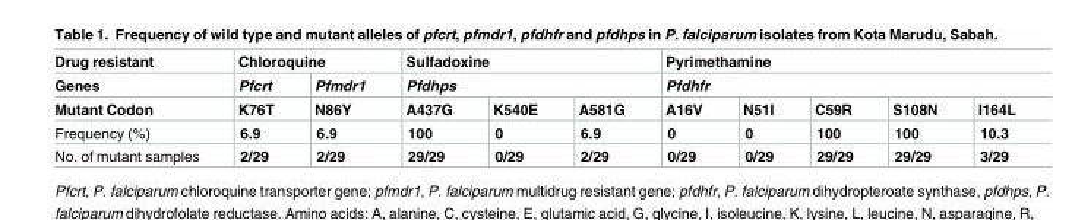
<table><thead><tr><td rowspan="3">Drug resistant Genes Mutant Codon</td><td colspan="2">Chloroquine</td><td rowspan="2" colspan="3">Sulfadoxine Pfdhps</td><td rowspan="2" colspan="5">Pyrimethamine Pfdhfr</td></tr><tr><td rowspan="2">Pfcrt K76T</td><td rowspan="2">Pfmdr1 N86Y</td></tr><tr><td>A437G</td><td>K540E</td><td>A581G</td><td>A16V</td><td>N51I</td><td>C59R</td><td>S108N</td><td>I164L</td></tr></thead><tbody><tr><td>Frequency (%)</td><td>6.9</td><td>6.9</td><td>100</td><td>0</td><td>6.9</td><td>0</td><td>0</td><td>100</td><td>100</td><td>10.3</td></tr><tr><td>No. of mutant samples</td><td>2/29</td><td>2/29</td><td>29/29</td><td>0/29</td><td>2/29</td><td>0/29</td><td>0/29</td><td>29/29</td><td>29/29</td><td>3/29</td></tr></tbody></table>